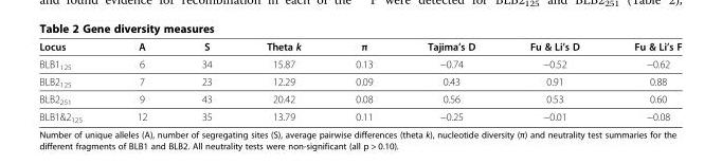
<table><thead><tr><td>Locus</td><td>A</td><td>S</td><td>Theta k</td><td>π</td><td>Tajima’s D</td><td>Fu &amp; Li’s D</td><td>Fu &amp; Li’s F</td></tr></thead><tbody><tr><td>BLB1<sub>125</sub></td><td>6</td><td>34</td><td>15.87</td><td>0.13</td><td>−0.74</td><td>−0.52</td><td>−0.62</td></tr><tr><td>BLB2<sub>125</sub></td><td>7</td><td>23</td><td>12.29</td><td>0.09</td><td>0.43</td><td>0.91</td><td>0.88</td></tr><tr><td>BLB2<sub>251</sub></td><td>9</td><td>43</td><td>20.42</td><td>0.08</td><td>0.56</td><td>0.53</td><td>0.60</td></tr><tr><td>BLB1&amp;2<sub>125</sub></td><td>12</td><td>35</td><td>13.79</td><td>0.11</td><td>−0.25</td><td>−0.01</td><td>−0.08</td></tr></tbody></table>